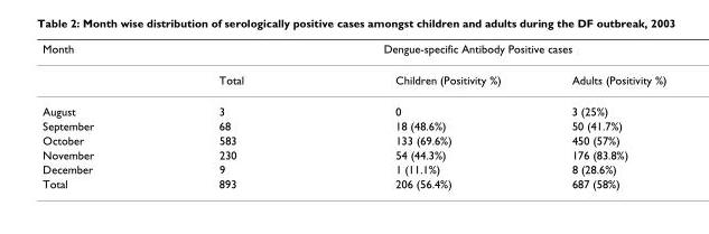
<table><thead><tr><td rowspan="2">Month</td><td colspan="3">Dengue-specific Antibody Positive cases</td></tr><tr><td>Total</td><td>Children (Positivity %)</td><td>Adults (Positivity %)</td></tr></thead><tbody><tr><td>August</td><td>3</td><td>0</td><td>3 (25%)</td></tr><tr><td>September</td><td>68</td><td>18 (48.6%)</td><td>50 (41.7%)</td></tr><tr><td>October</td><td>583</td><td>133 (69.6%)</td><td>450 (57%)</td></tr><tr><td>November</td><td>230</td><td>54 (44.3%)</td><td>176 (83.8%)</td></tr><tr><td>December</td><td>9</td><td>1 (11.1%)</td><td>8 (28.6%)</td></tr><tr><td>Total</td><td>893</td><td>206 (56.4%)</td><td>687 (58%)</td></tr></tbody></table>